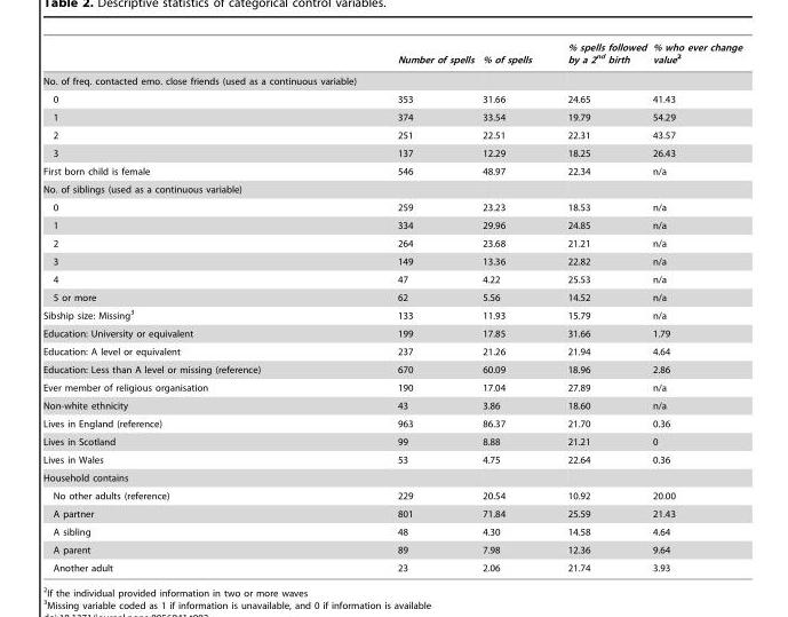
<table><thead><tr><td></td><td>Number of spells</td><td>% of spells</td><td>% spells followed by a 2<sup>nd</sup> birth</td><td>% who ever change value2</td></tr></thead><tbody><tr><td colspan="5">No. of freq. contacted emo. close friends (used as a continuous variable)</td></tr><tr><td>0</td><td>353</td><td>31.66</td><td>24.65</td><td>41.43</td></tr><tr><td>1</td><td>374</td><td>33.54</td><td>19.79</td><td>54.29</td></tr><tr><td>2</td><td>251</td><td>22.51</td><td>22.31</td><td>43.57</td></tr><tr><td>3</td><td>137</td><td>12.29</td><td>18.25</td><td>26.43</td></tr><tr><td>First born child is female</td><td>546</td><td>48.97</td><td>22.34</td><td>n/a</td></tr><tr><td colspan="5">No. of siblings (used as a continuous variable)</td></tr><tr><td>0</td><td>259</td><td>23.23</td><td>18.53</td><td>n/a</td></tr><tr><td>1</td><td>334</td><td>29.96</td><td>24.85</td><td>n/a</td></tr><tr><td>2</td><td>264</td><td>23.68</td><td>21.21</td><td>n/a</td></tr><tr><td>3</td><td>149</td><td>13.36</td><td>22.82</td><td>n/a</td></tr><tr><td>4</td><td>47</td><td>4.22</td><td>25.53</td><td>n/a</td></tr><tr><td>5 or more</td><td>62</td><td>5.56</td><td>14.52</td><td>n/a</td></tr><tr><td>Sibship size: Missing<sup>3</sup></td><td>133</td><td>11.93</td><td>15.79</td><td>n/a</td></tr><tr><td>Education: University or equivalent</td><td>199</td><td>17.85</td><td>31.66</td><td>1.79</td></tr><tr><td>Education: A level or equivalent</td><td>237</td><td>21.26</td><td>21.94</td><td>4.64</td></tr><tr><td>Education: Less than A level or missing (reference)</td><td>670</td><td>60.09</td><td>18.96</td><td>2.86</td></tr><tr><td>Ever member of religious organisation</td><td>190</td><td>17.04</td><td>27.89</td><td>n/a</td></tr><tr><td>Non-white ethnicity</td><td>43</td><td>3.86</td><td>18.60</td><td>n/a</td></tr><tr><td>Lives in England (reference)</td><td>963</td><td>86.37</td><td>21.70</td><td>0.36</td></tr><tr><td>Lives in Scotland</td><td>99</td><td>8.88</td><td>21.21</td><td>0</td></tr><tr><td>Lives in Wales</td><td>53</td><td>4.75</td><td>22.64</td><td>0.36</td></tr><tr><td colspan="5">Household contains</td></tr><tr><td>No other adults (reference)</td><td>229</td><td>20.54</td><td>10.92</td><td>20.00</td></tr><tr><td>A partner</td><td>801</td><td>71.84</td><td>25.59</td><td>21.43</td></tr><tr><td>A sibling</td><td>48</td><td>4.30</td><td>14.58</td><td>4.64</td></tr><tr><td>A parent</td><td>89</td><td>7.98</td><td>12.36</td><td>9.64</td></tr><tr><td>Another adult</td><td>23</td><td>2.06</td><td>21.74</td><td>3.93</td></tr></tbody></table>